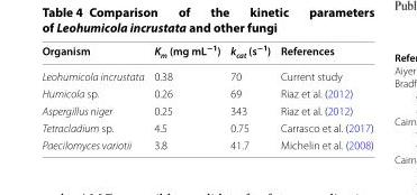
<table><thead><tr><td>Organism</td><td>K<sub>m</sub> (mg mL<sup>−1</sup>)</td><td>k<sub>cat</sub> (s<sup>−1</sup>)</td><td>References</td></tr></thead><tbody><tr><td>Leohumicola incrustata</td><td>0.38</td><td>70</td><td>Current study</td></tr><tr><td>Humicola sp.</td><td>0.26</td><td>69</td><td>Riaz et al. (2012)</td></tr><tr><td>Aspergillus niger</td><td>0.25</td><td>343</td><td>Riaz et al. (2012)</td></tr><tr><td>Tetracladium sp.</td><td>4.5</td><td>0.75</td><td>Carrasco et al. (2017)</td></tr><tr><td>Paecilomyces variotii</td><td>3.8</td><td>41.7</td><td>Michelin et al. (2008)</td></tr></tbody></table>